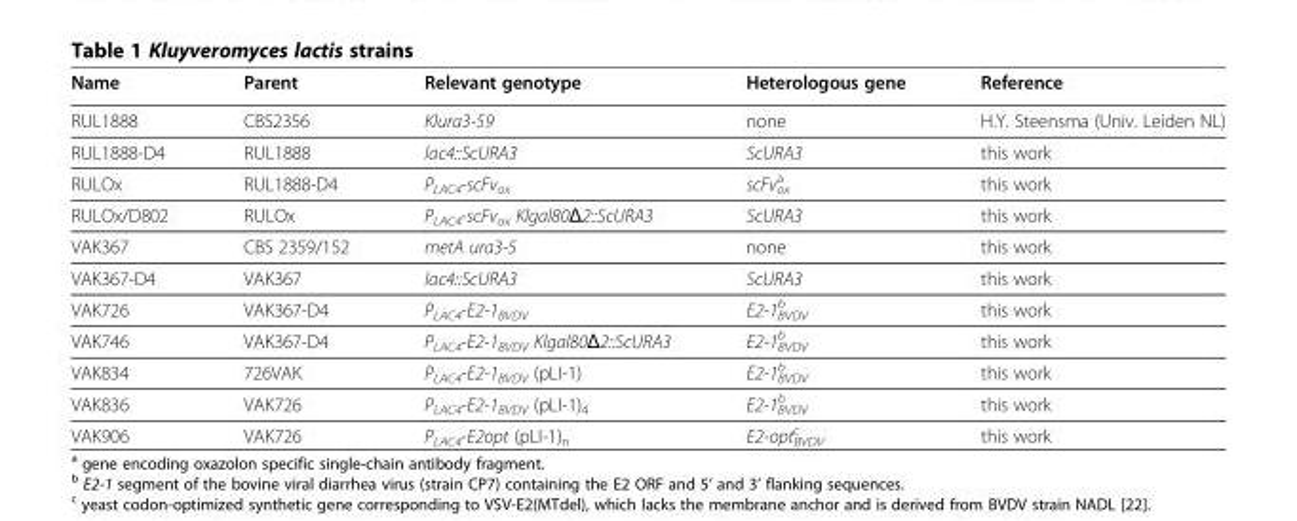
<table><thead><tr><td>Name</td><td>Parent</td><td>Relevant genotype</td><td>Heterologous gene</td><td>Reference</td></tr></thead><tbody><tr><td>RUL1888</td><td>CBS2356</td><td>Klura3-59</td><td>none</td><td>H.Y. Steensma (Univ. Leiden NL)</td></tr><tr><td>RUL1888-D4</td><td>RUL1888</td><td>lac4::ScURA3</td><td>ScURA3</td><td>this work</td></tr><tr><td>RULOx</td><td>RUL1888-D4</td><td>P<sub>LAC4</sub>-scFv<sub>ox</sub></td><td>scFv<sub>ox</sub> <sup>a</sup></td><td>this work</td></tr><tr><td>RULOx/D802</td><td>RULOx</td><td>P<sub>LAC4</sub>-scFv<sub>ox</sub> Klgal80Δ2::ScURA3</td><td>ScURA3</td><td>this work</td></tr><tr><td>VAK367</td><td>CBS 2359/152</td><td>metA ura3-5</td><td>none</td><td>this work</td></tr><tr><td>VAK367-D4</td><td>VAK367</td><td>lac4::ScURA3</td><td>ScURA3</td><td>this work</td></tr><tr><td>VAK726</td><td>VAK367-D4</td><td>P<sub>LAC4</sub>-E2-1<sub>BVDV</sub></td><td>E2-1<sub>BVDV</sub> <sup>b</sup></td><td>this work</td></tr><tr><td>VAK746</td><td>VAK367-D4</td><td>P<sub>LAC4</sub>-E2-1<sub>BVDV</sub> Klgal80Δ2::ScURA3</td><td>E2-1<sub>BVDV</sub> <sup>b</sup></td><td>this work</td></tr><tr><td>VAK834</td><td>726VAK</td><td>P<sub>LAC4</sub>-E2-1<sub>BVDV</sub> (pLI-1)</td><td>E2-1<sub>BVDV</sub> <sup>b</sup></td><td>this work</td></tr><tr><td>VAK836</td><td>VAK726</td><td>P<sub>LAC4</sub>-E2-1<sub>BVDV</sub> (pLI-1)<sub>4</sub></td><td>E2-1<sub>BVDV</sub> <sup>b</sup></td><td>this work</td></tr><tr><td>VAK906</td><td>VAK726</td><td>P<sub>LAC4</sub>-E2opt (pLI-1)<sub>n</sub></td><td>E2-opt<sub>BVDV</sub> <sup>c</sup></td><td>this work</td></tr></tbody></table>